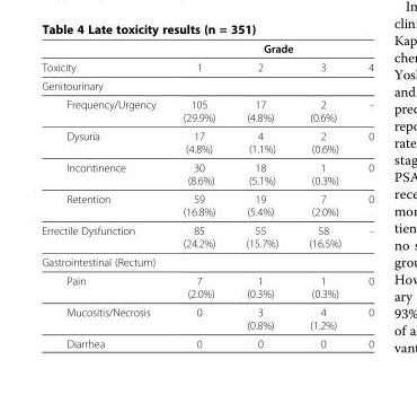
<table><thead><tr><td rowspan="2">Toxicity</td><td colspan="4">Grade</td></tr><tr><td>1</td><td>2</td><td>3</td><td>4</td></tr></thead><tbody><tr><td colspan="5">Genitourinary</td></tr><tr><td>Frequency/Urgency</td><td>105 (29.9%)</td><td>17 (4.8%)</td><td>2 (0.6%)</td><td>-</td></tr><tr><td>Dysuria</td><td>17 (4.8%)</td><td>4 (1.1%)</td><td>2 (0.6%)</td><td>0</td></tr><tr><td>Incontinence</td><td>30 (8.6%)</td><td>18 (5.1%)</td><td>1 (0.3%)</td><td>0</td></tr><tr><td>Retention</td><td>59 (16.8%)</td><td>19 (5.4%)</td><td>7 (2.0%)</td><td>0</td></tr><tr><td>Errectile Dysfunction</td><td>85 (24.2%)</td><td>55 (15.7%)</td><td>58 (16.5%)</td><td>-</td></tr><tr><td colspan="5">Gastrointestinal (Rectum)</td></tr><tr><td>Pain</td><td>7 (2.0%)</td><td>1 (0.3%)</td><td>1 (0.3%)</td><td>0</td></tr><tr><td>Mucositis/Necrosis</td><td>0</td><td>3 (0.8%)</td><td>4 (1.2%)</td><td>0</td></tr><tr><td>Diarrhea</td><td>0</td><td>0</td><td>0</td><td>0</td></tr></tbody></table>